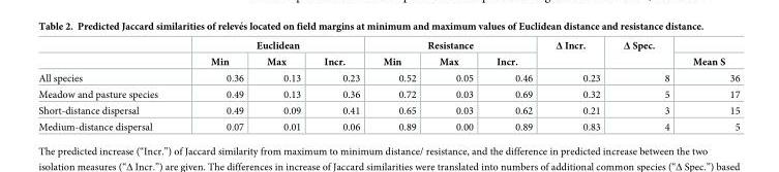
<table><thead><tr><td rowspan="2"></td><td colspan="3">Euclidean</td><td colspan="3">Resistance</td><td rowspan="2">Δ Incr.</td><td rowspan="2">Δ Spec.</td><td rowspan="2">Mean S</td></tr><tr><td>Min</td><td>Max</td><td>Incr.</td><td>Min</td><td>Max</td><td>Incr.</td></tr></thead><tbody><tr><td>All species</td><td>0.36</td><td>0.13</td><td>0.23</td><td>0.52</td><td>0.05</td><td>0.46</td><td>0.23</td><td>8</td><td>36</td></tr><tr><td>Meadow and pasture species</td><td>0.49</td><td>0.13</td><td>0.36</td><td>0.72</td><td>0.03</td><td>0.69</td><td>0.32</td><td>5</td><td>17</td></tr><tr><td>Short-distance dispersal</td><td>0.49</td><td>0.09</td><td>0.41</td><td>0.65</td><td>0.03</td><td>0.62</td><td>0.21</td><td>3</td><td>15</td></tr><tr><td>Medium-distance dispersal</td><td>0.07</td><td>0.01</td><td>0.06</td><td>0.89</td><td>0.00</td><td>0.89</td><td>0.83</td><td>4</td><td>5</td></tr></tbody></table>